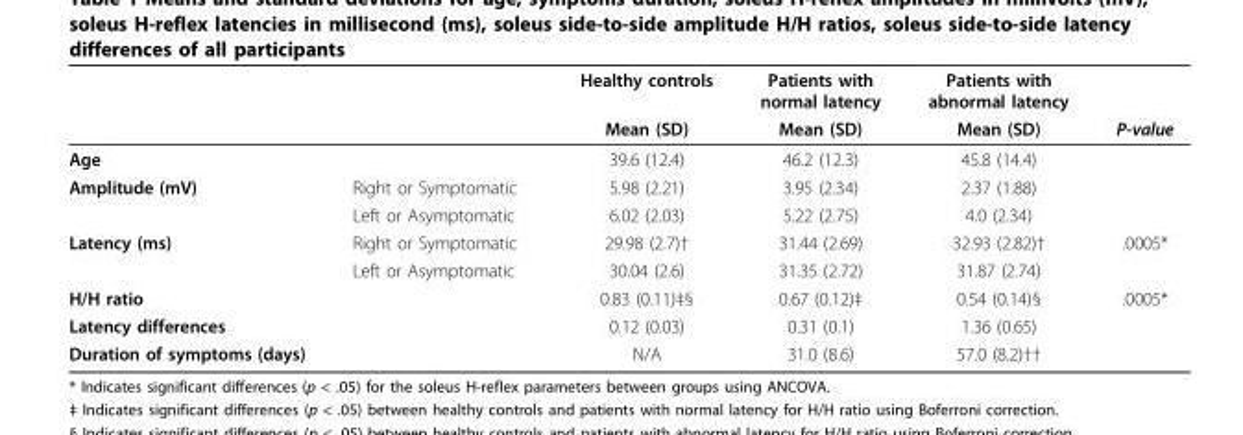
<table><thead><tr><td rowspan="2"></td><td rowspan="2"></td><td rowspan="2">Healthy controls Mean (SD)</td><td rowspan="2">Patients with normal latency Mean (SD)</td><td rowspan="2">Patients with abnormal latency Mean (SD)</td><td rowspan="2">P-value</td></tr><tr></tr></thead><tbody><tr><td>Age</td><td></td><td>39.6 (12.4)</td><td>46.2 (12.3)</td><td>45.8 (14.4)</td><td></td></tr><tr><td rowspan="2">Amplitude (mV)</td><td>Right or Symptomatic</td><td>5.98 (2.21)</td><td>3.95 (2.34)</td><td>2.37 (1.88)</td><td></td></tr><tr><td>Left or Asymptomatic</td><td>6.02 (2.03)</td><td>5.22 (2.75)</td><td>4.0 (2.34)</td><td></td></tr><tr><td rowspan="2">Latency (ms)</td><td>Right or Symptomatic</td><td>29.98 (2.7)†</td><td>31.44 (2.69)</td><td>32.93 (2.82)†</td><td>.0005*</td></tr><tr><td>Left or Asymptomatic</td><td>30.04 (2.6)</td><td>31.35 (2.72)</td><td>31.87 (2.74)</td><td></td></tr><tr><td>H/H ratio</td><td></td><td>0.83 (0.11)‡§</td><td>0.67 (0.12)‡</td><td>0.54 (0.14)§</td><td>.0005*</td></tr><tr><td>Latency differences</td><td></td><td>0.12 (0.03)</td><td>0.31 (0.1)</td><td>1.36 (0.65)</td><td></td></tr><tr><td>Duration of symptoms (days)</td><td></td><td>N/A</td><td>31.0 (8.6)</td><td>57.0 (8.2)††</td><td></td></tr></tbody></table>